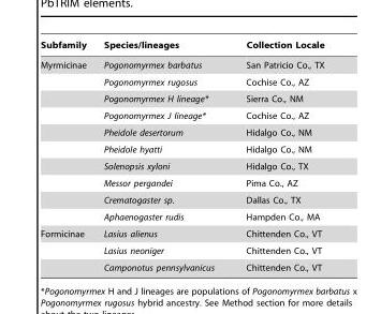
<table><thead><tr><td>Subfamily</td><td>Species/lineages</td><td>Collection Locale</td></tr></thead><tbody><tr><td rowspan="10">Myrmicinae</td><td>Pogonomyrmex barbatus</td><td>San Patricio Co., TX</td></tr><tr><td>Pogonomyrmex rugosus</td><td>Cochise Co., AZ</td></tr><tr><td>Pogonomyrmex H lineage*</td><td>Sierra Co., NM</td></tr><tr><td>Pogonomyrmex J lineage*</td><td>Cochise Co., AZ</td></tr><tr><td>Pheidole desertorum</td><td>Hidalgo Co., NM</td></tr><tr><td>Pheidole hyatti</td><td>Hidalgo Co., NM</td></tr><tr><td>Solenopsis xyloni</td><td>Hidalgo Co., TX</td></tr><tr><td>Messor pergandei</td><td>Pima Co., AZ</td></tr><tr><td>Crematogaster sp.</td><td>Dallas Co., TX</td></tr><tr><td>Aphaenogaster rudis</td><td>Hampden Co., MA</td></tr><tr><td rowspan="3">Formicinae</td><td>Lasius alienus</td><td>Chittenden Co., VT</td></tr><tr><td>Lasius neoniger</td><td>Chittenden Co., VT</td></tr><tr><td>Camponotus pennsylvanicus</td><td>Chittenden Co., VT</td></tr></tbody></table>